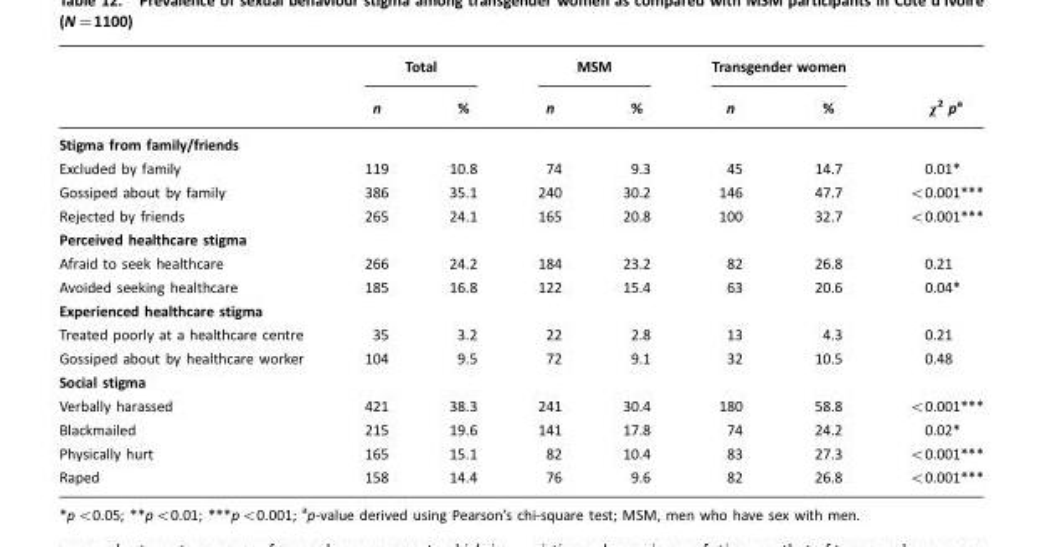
<table><thead><tr><td rowspan="2"></td><td colspan="2">Total</td><td colspan="2">MSM</td><td colspan="2">Transgender women</td><td rowspan="2">χ<sup>2</sup> p<sup>a</sup></td></tr><tr><td>n</td><td>%</td><td>n</td><td>%</td><td>n</td><td>%</td></tr></thead><tbody><tr><td colspan="8">Stigma from family/friends</td></tr><tr><td>Excluded by family</td><td>119</td><td>10.8</td><td>74</td><td>9.3</td><td>45</td><td>14.7</td><td>0.01*</td></tr><tr><td>Gossiped about by family</td><td>386</td><td>35.1</td><td>240</td><td>30.2</td><td>146</td><td>47.7</td><td>&lt;0.001***</td></tr><tr><td>Rejected by friends</td><td>265</td><td>24.1</td><td>165</td><td>20.8</td><td>100</td><td>32.7</td><td>&lt;0.001***</td></tr><tr><td colspan="8">Perceived healthcare stigma</td></tr><tr><td>Afraid to seek healthcare</td><td>266</td><td>24.2</td><td>184</td><td>23.2</td><td>82</td><td>26.8</td><td>0.21</td></tr><tr><td>Avoided seeking healthcare</td><td>185</td><td>16.8</td><td>122</td><td>15.4</td><td>63</td><td>20.6</td><td>0.04*</td></tr><tr><td colspan="8">Experienced healthcare stigma</td></tr><tr><td>Treated poorly at a healthcare centre</td><td>35</td><td>3.2</td><td>22</td><td>2.8</td><td>13</td><td>4.3</td><td>0.21</td></tr><tr><td>Gossiped about by healthcare worker</td><td>104</td><td>9.5</td><td>72</td><td>9.1</td><td>32</td><td>10.5</td><td>0.48</td></tr><tr><td colspan="8">Social stigma</td></tr><tr><td>Verbally harassed</td><td>421</td><td>38.3</td><td>241</td><td>30.4</td><td>180</td><td>58.8</td><td>&lt;0.001***</td></tr><tr><td>Blackmailed</td><td>215</td><td>19.6</td><td>141</td><td>17.8</td><td>74</td><td>24.2</td><td>0.02*</td></tr><tr><td>Physically hurt</td><td>165</td><td>15.1</td><td>82</td><td>10.4</td><td>83</td><td>27.3</td><td>&lt;0.001***</td></tr><tr><td>Raped</td><td>158</td><td>14.4</td><td>76</td><td>9.6</td><td>82</td><td>26.8</td><td>&lt;0.001***</td></tr></tbody></table>